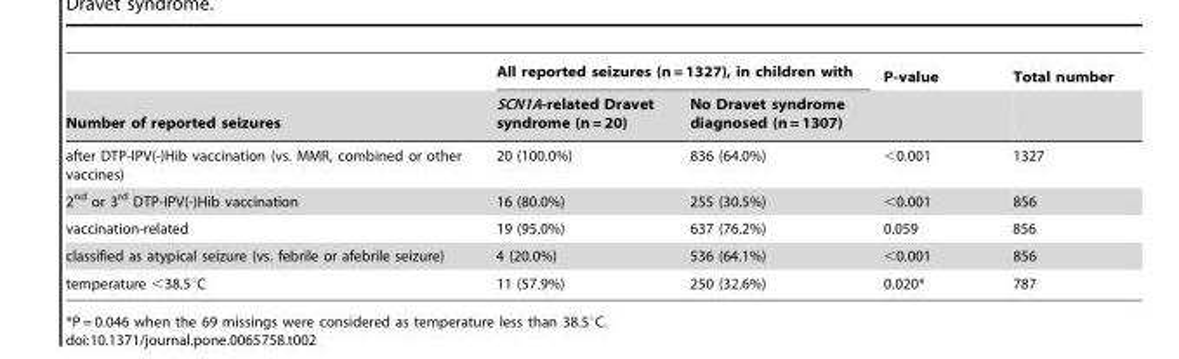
<table><thead><tr><td rowspan="2">Number of reported seizures</td><td colspan="2">All reported seizures (n = 1327), in children with</td><td rowspan="2">P-value</td><td rowspan="2">Total number</td></tr><tr><td>SCN1A-related Dravet syndrome (n = 20)</td><td>No Dravet syndrome diagnosed (n = 1307)</td></tr></thead><tbody><tr><td>after DTP-IPV(-)Hib vaccination (vs. MMR, combined or other vaccines)</td><td>20 (100.0%)</td><td>836 (64.0%)</td><td>&lt;0.001</td><td>1327</td></tr><tr><td>2<sup>nd</sup> or 3<sup>rd</sup> DTP-IPV(-)Hib vaccination</td><td>16 (80.0%)</td><td>255 (30.5%)</td><td>&lt;0.001</td><td>856</td></tr><tr><td>vaccination-related</td><td>19 (95.0%)</td><td>637 (76.2%)</td><td>0.059</td><td>856</td></tr><tr><td>classified as atypical seizure (vs. febrile or afebrile seizure)</td><td>4 (20.0%)</td><td>536 (64.1%)</td><td>&lt;0.001</td><td>856</td></tr><tr><td>temperature &lt;38.5°C</td><td>11 (57.9%)</td><td>250 (32.6%)</td><td>0.020*</td><td>787</td></tr></tbody></table>